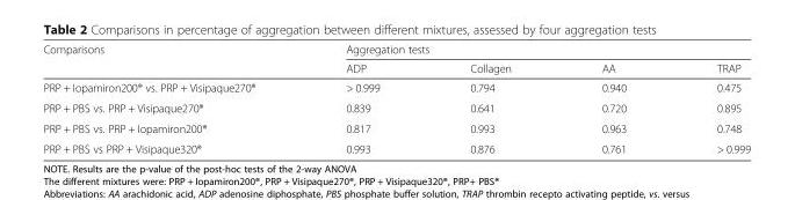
<table><thead><tr><td rowspan="2">Comparisons</td><td colspan="4">Aggregation tests</td></tr><tr><td>ADP</td><td>Collagen</td><td>AA</td><td>TRAP</td></tr></thead><tbody><tr><td>PRP + Iopamiron200® vs. PRP + Visipaque270®</td><td>&gt; 0.999</td><td>0.794</td><td>0.940</td><td>0.475</td></tr><tr><td>PRP + PBS vs. PRP + Visipaque270®</td><td>0.839</td><td>0.641</td><td>0.720</td><td>0.895</td></tr><tr><td>PRP + PBS vs. PRP + Iopamiron200®</td><td>0.817</td><td>0.993</td><td>0.963</td><td>0.748</td></tr><tr><td>PRP + PBS vs PRP + Visipaque320®</td><td>0.993</td><td>0.876</td><td>0.761</td><td>&gt; 0.999</td></tr></tbody></table>